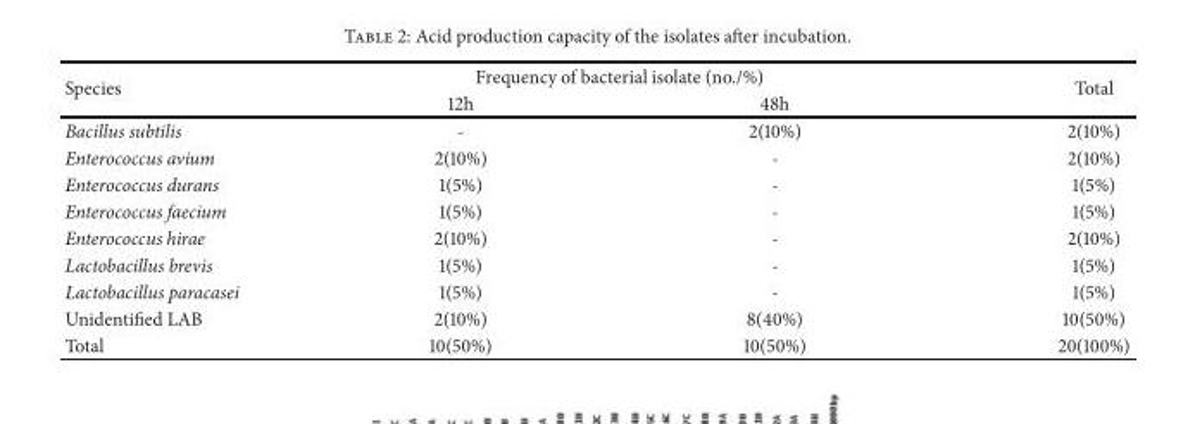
<table><thead><tr><td rowspan="2">Species</td><td colspan="2">Frequency of bacterial isolate (no./%)</td><td rowspan="2">Total</td></tr><tr><td>12h</td><td>48h</td></tr></thead><tbody><tr><td>Bacillus subtilis</td><td>-</td><td>2(10%)</td><td>2(10%)</td></tr><tr><td>Enterococcus avium</td><td>2(10%)</td><td>-</td><td>2(10%)</td></tr><tr><td>Enterococcus durans</td><td>1(5%)</td><td>-</td><td>1(5%)</td></tr><tr><td>Enterococcus faecium</td><td>1(5%)</td><td>-</td><td>1(5%)</td></tr><tr><td>Enterococcus hirae</td><td>2(10%)</td><td>-</td><td>2(10%)</td></tr><tr><td>Lactobacillus brevis</td><td>1(5%)</td><td>-</td><td>1(5%)</td></tr><tr><td>Lactobacillus paracasei</td><td>1(5%)</td><td>-</td><td>1(5%)</td></tr><tr><td>Unidentified LAB</td><td>2(10%)</td><td>8(40%)</td><td>10(50%)</td></tr><tr><td>Total</td><td>10(50%)</td><td>10(50%)</td><td>20(100%)</td></tr></tbody></table>